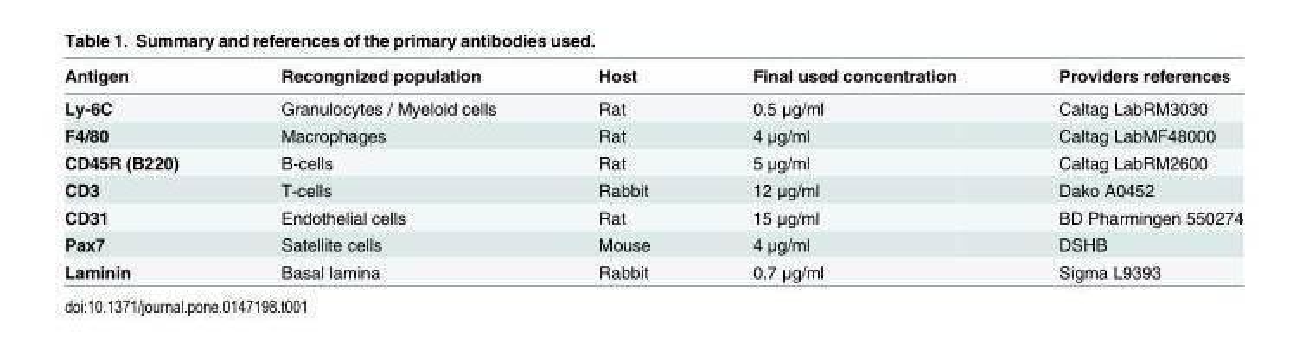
<table><thead><tr><td>Antigen</td><td>Recongnized population</td><td>Host</td><td>Final used concentration</td><td>Providers references</td></tr></thead><tbody><tr><td>Ly-6C</td><td>Granulocytes / Myeloid cells</td><td>Rat</td><td>0.5 μg/ml</td><td>Caltag LabRM3030</td></tr><tr><td>F4/80</td><td>Macrophages</td><td>Rat</td><td>4 μg/ml</td><td>Caltag LabMF48000</td></tr><tr><td>CD45R (B220)</td><td>B-cells</td><td>Rat</td><td>5 μg/ml</td><td>Caltag LabRM2600</td></tr><tr><td>CD3</td><td>T-cells</td><td>Rabbit</td><td>12 μg/ml</td><td>Dako A0452</td></tr><tr><td>CD31</td><td>Endothelial cells</td><td>Rat</td><td>15 μg/ml</td><td>BD Pharmingen 550274</td></tr><tr><td>Pax7</td><td>Satellite cells</td><td>Mouse</td><td>4 μg/ml</td><td>DSHB</td></tr><tr><td>Laminin</td><td>Basal lamina</td><td>Rabbit</td><td>0.7 μg/ml</td><td>Sigma L9393</td></tr></tbody></table>